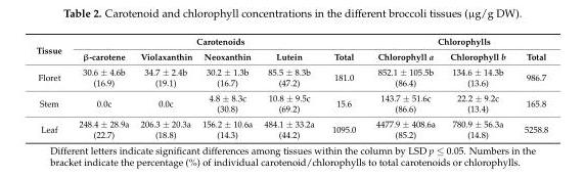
<table><thead><tr><td rowspan="2">Tissue</td><td colspan="5">Carotenoids</td><td colspan="3">Chlorophylls</td></tr><tr><td>β-carotene</td><td>Violaxanthin</td><td>Neoxanthin</td><td>Lutein</td><td>Total</td><td>Chlorophyll a</td><td>Chlorophyll b</td><td>Total</td></tr></thead><tbody><tr><td>Floret</td><td>30.6 ± 4.6b (16.9)</td><td>34.7 ± 2.4b (19.1)</td><td>30.2 ± 1.3b (16.7)</td><td>85.5 ± 8.3b (47.2)</td><td>181.0</td><td>852.1 ± 105.5b (86.4)</td><td>134.6 ± 14.3b (13.6)</td><td>986.7</td></tr><tr><td>Stem</td><td>0.0c</td><td>0.0c</td><td>4.8 ± 8.3c (30.8)</td><td>10.8 ± 9.5c (69.2)</td><td>15.6</td><td>143.7 ± 51.6c (86.6)</td><td>22.2 ± 9.2c (13.4)</td><td>165.8</td></tr><tr><td>Leaf</td><td>248.4 ± 28.9a (22.7)</td><td>206.3 ± 20.3a (18.8)</td><td>156.2 ± 10.6a (14.3)</td><td>484.1 ± 33.2a (44.2)</td><td>1095.0</td><td>4477.9 ± 408.6a (85.2)</td><td>780.9 ± 56.3a (14.8)</td><td>5258.8</td></tr></tbody></table>